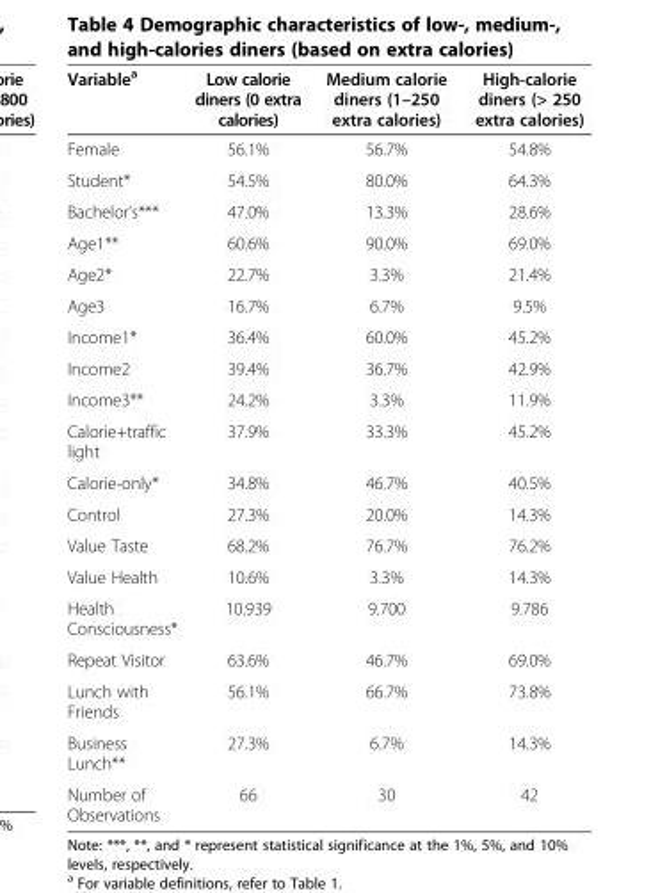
<table><thead><tr><td>Variable<sup>a</sup></td><td>Low calorie diners (0 extra calories)</td><td>Medium calorie diners (1–250 extra calories)</td><td>High-calorie diners (&gt; 250 extra calories)</td></tr></thead><tbody><tr><td>Female</td><td>56.1%</td><td>56.7%</td><td>54.8%</td></tr><tr><td>Student*</td><td>54.5%</td><td>80.0%</td><td>64.3%</td></tr><tr><td>Bachelor’s***</td><td>47.0%</td><td>13.3%</td><td>28.6%</td></tr><tr><td>Age1**</td><td>60.6%</td><td>90.0%</td><td>69.0%</td></tr><tr><td>Age2*</td><td>22.7%</td><td>3.3%</td><td>21.4%</td></tr><tr><td>Age3</td><td>16.7%</td><td>6.7%</td><td>9.5%</td></tr><tr><td>Income1*</td><td>36.4%</td><td>60.0%</td><td>45.2%</td></tr><tr><td>Income2</td><td>39.4%</td><td>36.7%</td><td>42.9%</td></tr><tr><td>Income3**</td><td>24.2%</td><td>3.3%</td><td>11.9%</td></tr><tr><td>Calorie+traffic light</td><td>37.9%</td><td>33.3%</td><td>45.2%</td></tr><tr><td>Calorie-only*</td><td>34.8%</td><td>46.7%</td><td>40.5%</td></tr><tr><td>Control</td><td>27.3%</td><td>20.0%</td><td>14.3%</td></tr><tr><td>Value Taste</td><td>68.2%</td><td>76.7%</td><td>76.2%</td></tr><tr><td>Value Health</td><td>10.6%</td><td>3.3%</td><td>14.3%</td></tr><tr><td>Health Consciousness*</td><td>10.939</td><td>9.700</td><td>9.786</td></tr><tr><td>Repeat Visitor</td><td>63.6%</td><td>46.7%</td><td>69.0%</td></tr><tr><td>Lunch with Friends</td><td>56.1%</td><td>66.7%</td><td>73.8%</td></tr><tr><td>Business Lunch**</td><td>27.3%</td><td>6.7%</td><td>14.3%</td></tr><tr><td>Number of Observations</td><td>66</td><td>30</td><td>42</td></tr></tbody></table>